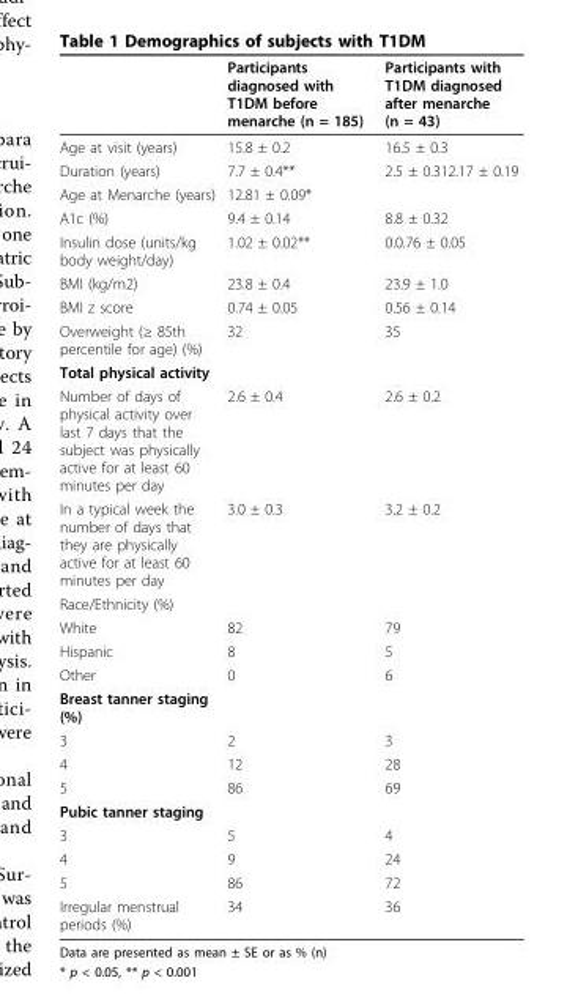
<table><thead><tr><td></td><td>Participants diagnosed with T1DM before menarche (n = 185)</td><td>Participants with T1DM diagnosed after menarche (n = 43)</td></tr></thead><tbody><tr><td>Age at visit (years)</td><td>15.8 ± 0.2</td><td>16.5 ± 0.3</td></tr><tr><td>Duration (years)</td><td>7.7 ± 0.4**</td><td>2.5 ± 0.312.17 ± 0.19</td></tr><tr><td>Age at Menarche (years)</td><td>12.81 ± 0.09*</td><td></td></tr><tr><td>A1c (%)</td><td>9.4 ± 0.14</td><td>8.8 ± 0.32</td></tr><tr><td>Insulin dose (units/kg body weight/day)</td><td>1.02 ± 0.02**</td><td>0.0.76 ± 0.05</td></tr><tr><td>BMI (kg/m2)</td><td>23.8 ± 0.4</td><td>23.9 ± 1.0</td></tr><tr><td>BMI z score</td><td>0.74 ± 0.05</td><td>0.56 ± 0.14</td></tr><tr><td>Overweight (≥ 85th percentile for age) (%)</td><td>32</td><td>35</td></tr><tr><td colspan="3">Total physical activity</td></tr><tr><td>Number of days of physical activity over last 7 days that the subject was physically active for at least 60 minutes per day</td><td>2.6 ± 0.4</td><td>2.6 ± 0.2</td></tr><tr><td>In a typical week the number of days that they are physically active for at least 60 minutes per day</td><td>3.0 ± 0.3</td><td>3.2 ± 0.2</td></tr><tr><td colspan="3">Race/Ethnicity (%)</td></tr><tr><td>White</td><td>82</td><td>79</td></tr><tr><td>Hispanic</td><td>8</td><td>5</td></tr><tr><td>Other</td><td>0</td><td>6</td></tr><tr><td colspan="3">Breast tanner staging (%)</td></tr><tr><td>3</td><td>2</td><td>3</td></tr><tr><td>4</td><td>12</td><td>28</td></tr><tr><td>5</td><td>86</td><td>69</td></tr><tr><td colspan="3">Pubic tanner staging</td></tr><tr><td>3</td><td>5</td><td>4</td></tr><tr><td>4</td><td>9</td><td>24</td></tr><tr><td>5</td><td>86</td><td>72</td></tr><tr><td>Irregular menstrual periods (%)</td><td>34</td><td>36</td></tr></tbody></table>